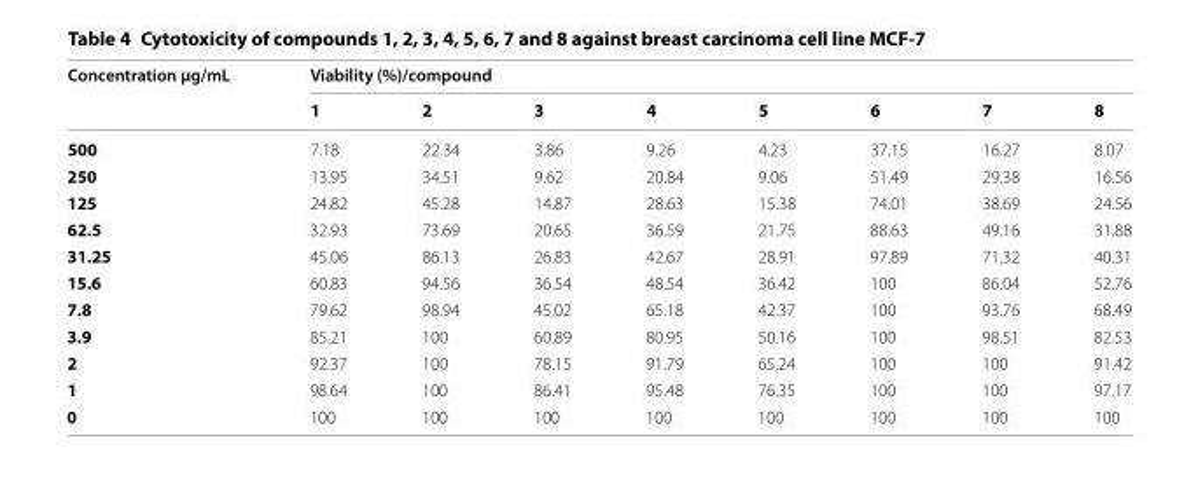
<table><thead><tr><td rowspan="2">Concentration µg/mL</td><td colspan="8">Viability (%)/compound</td></tr><tr><td>1</td><td>2</td><td>3</td><td>4</td><td>5</td><td>6</td><td>7</td><td>8</td></tr></thead><tbody><tr><td>500</td><td>7.18</td><td>22.34</td><td>3.86</td><td>9.26</td><td>4.23</td><td>37.15</td><td>16.27</td><td>8.07</td></tr><tr><td>250</td><td>13.95</td><td>34.51</td><td>9.62</td><td>20.84</td><td>9.06</td><td>51.49</td><td>29.38</td><td>16.56</td></tr><tr><td>125</td><td>24.82</td><td>45.28</td><td>14.87</td><td>28.63</td><td>15.38</td><td>74.01</td><td>38.69</td><td>24.56</td></tr><tr><td>62.5</td><td>32.93</td><td>73.69</td><td>20.65</td><td>36.59</td><td>21.75</td><td>88.63</td><td>49.16</td><td>31.88</td></tr><tr><td>31.25</td><td>45.06</td><td>86.13</td><td>26.83</td><td>42.67</td><td>28.91</td><td>97.89</td><td>71.32</td><td>40.31</td></tr><tr><td>15.6</td><td>60.83</td><td>94.56</td><td>36.54</td><td>48.54</td><td>36.42</td><td>100</td><td>86.04</td><td>52.76</td></tr><tr><td>7.8</td><td>79.62</td><td>98.94</td><td>45.02</td><td>65.18</td><td>42.37</td><td>100</td><td>93.76</td><td>68.49</td></tr><tr><td>3.9</td><td>85.21</td><td>100</td><td>60.89</td><td>80.95</td><td>50.16</td><td>100</td><td>98.51</td><td>82.53</td></tr><tr><td>2</td><td>92.37</td><td>100</td><td>78.15</td><td>91.79</td><td>65.24</td><td>100</td><td>100</td><td>91.42</td></tr><tr><td>1</td><td>98.64</td><td>100</td><td>86.41</td><td>95.48</td><td>76.35</td><td>100</td><td>100</td><td>97.17</td></tr><tr><td>0</td><td>100</td><td>100</td><td>100</td><td>100</td><td>100</td><td>100</td><td>100</td><td>100</td></tr></tbody></table>